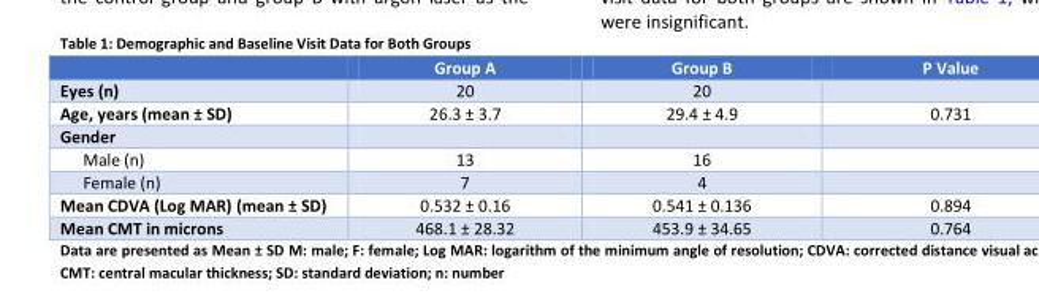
<table><thead><tr><td></td><td>Group A</td><td>Group B</td><td>P Value</td></tr></thead><tbody><tr><td>Eyes (n)</td><td>20</td><td>20</td><td></td></tr><tr><td>Age, years (mean ± SD)</td><td>26.3 ± 3.7</td><td>29.4 ± 4.9</td><td>0.731</td></tr><tr><td colspan="4">Gender</td></tr><tr><td>Male (n)</td><td>13</td><td>16</td><td></td></tr><tr><td>Female (n)</td><td>7</td><td>4</td><td></td></tr><tr><td>Mean CDVA (Log MAR) (mean ± SD)</td><td>0.532 ± 0.16</td><td>0.541 ± 0.136</td><td>0.894</td></tr><tr><td>Mean CMT in microns</td><td>468.1 ± 28.32</td><td>453.9 ± 34.65</td><td>0.764</td></tr></tbody></table>